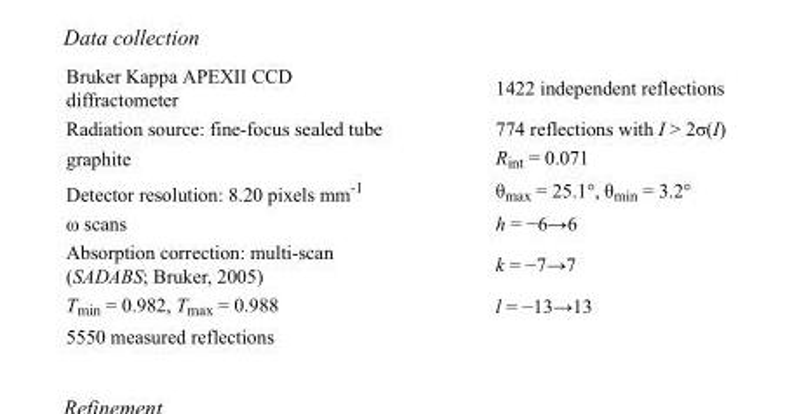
<table><tbody><tr><td>Bruker Kappa APEXII CCD diffractometer</td><td>1422 independent reflections</td></tr><tr><td>Radiation source: fine-focus sealed tube</td><td>774 reflections with I &gt; 2σ(I)</td></tr><tr><td>graphite</td><td>R<sub>int</sub> = 0.071</td></tr><tr><td>Detector resolution: 8.20 pixels mm<sup>-1</sup></td><td>θ<sub>max</sub> = 25.1°, θ<sub>min</sub> = 3.2°</td></tr><tr><td>ω scans</td><td>h = −6→6</td></tr><tr><td>Absorption correction: multi-scan (SADABS; Bruker, 2005)</td><td>k = −7→7</td></tr><tr><td>T<sub>min</sub> = 0.982, T<sub>max</sub> = 0.988</td><td>l = −13→13</td></tr><tr><td>5550 measured reflections</td><td></td></tr></tbody></table>